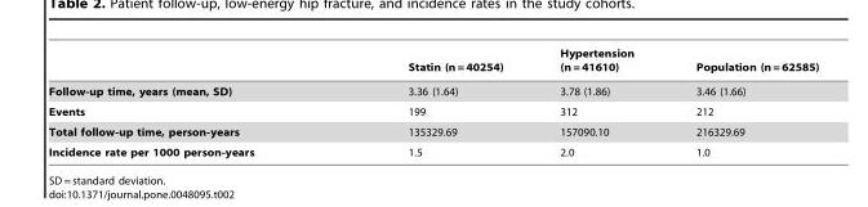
<table><thead><tr><td></td><td>Statin (n = 40254)</td><td>Hypertension (n = 41610)</td><td>Population (n = 62585)</td></tr></thead><tbody><tr><td>Follow-up time, years (mean, SD)</td><td>3.36 (1.64)</td><td>3.78 (1.86)</td><td>3.46 (1.66)</td></tr><tr><td>Events</td><td>199</td><td>312</td><td>212</td></tr><tr><td>Total follow-up time, person-years</td><td>135329.69</td><td>157090.10</td><td>216329.69</td></tr><tr><td>Incidence rate per 1000 person-years</td><td>1.5</td><td>2.0</td><td>1.0</td></tr></tbody></table>